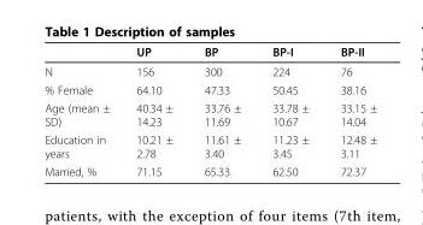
<table><thead><tr><td></td><td>UP</td><td>BP</td><td>BP-I</td><td>BP-II</td></tr></thead><tbody><tr><td>N</td><td>156</td><td>300</td><td>224</td><td>76</td></tr><tr><td>% Female</td><td>64.10</td><td>47.33</td><td>50.45</td><td>38.16</td></tr><tr><td>Age (mean ± SD)</td><td>40.34 ± 14.23</td><td>33.76 ± 11.69</td><td>33.78 ± 10.67</td><td>33.15 ± 14.04</td></tr><tr><td>Education in years</td><td>10.21 ± 2.78</td><td>11.61 ± 3.40</td><td>11.23 ± 3.45</td><td>12.48 ± 3.11</td></tr><tr><td>Married, %</td><td>71.15</td><td>65.33</td><td>62.50</td><td>72.37</td></tr></tbody></table>